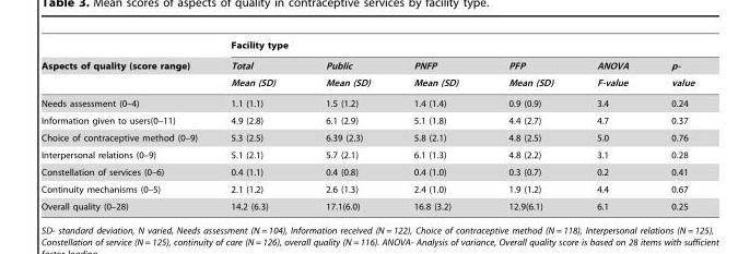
<table><thead><tr><td rowspan="3">Aspects of quality (score range)</td><td colspan="6">Facility type</td></tr><tr><td rowspan="2">Total Mean (SD)</td><td rowspan="2">Public Mean (SD)</td><td rowspan="2">PNFP Mean (SD)</td><td rowspan="2">PFP Mean (SD)</td><td rowspan="2">ANOVA F-value</td><td rowspan="2">p- value</td></tr><tr></tr></thead><tbody><tr><td>Needs assessment (0–4)</td><td>1.1 (1.1)</td><td>1.5 (1.2)</td><td>1.4 (1.4)</td><td>0.9 (0.9)</td><td>3.4</td><td>0.24</td></tr><tr><td>Information given to users(0–11)</td><td>4.9 (2.8)</td><td>6.1 (2.9)</td><td>5.1 (1.8)</td><td>4.4 (2.7)</td><td>4.7</td><td>0.37</td></tr><tr><td>Choice of contraceptive method (0–9)</td><td>5.3 (2.5)</td><td>6.39 (2.3)</td><td>5.8 (2.1)</td><td>4.8 (2.5)</td><td>5.0</td><td>0.76</td></tr><tr><td>Interpersonal relations (0–9)</td><td>5.1 (2.1)</td><td>5.7 (2.1)</td><td>6.1 (1.3)</td><td>4.8 (2.2)</td><td>3.1</td><td>0.28</td></tr><tr><td>Constellation of services (0–6)</td><td>0.4 (1.1)</td><td>0.4 (0.8)</td><td>0.4 (1.0)</td><td>0.3 (0.7)</td><td>0.2</td><td>0.41</td></tr><tr><td>Continuity mechanisms (0–5)</td><td>2.1 (1.2)</td><td>2.6 (1.3)</td><td>2.4 (1.0)</td><td>1.9 (1.2)</td><td>4.4</td><td>0.67</td></tr><tr><td>Overall quality (0–28)</td><td>14.2 (6.3)</td><td>17.1(6.0)</td><td>16.8 (3.2)</td><td>12.9(6.1)</td><td>6.1</td><td>0.25</td></tr></tbody></table>